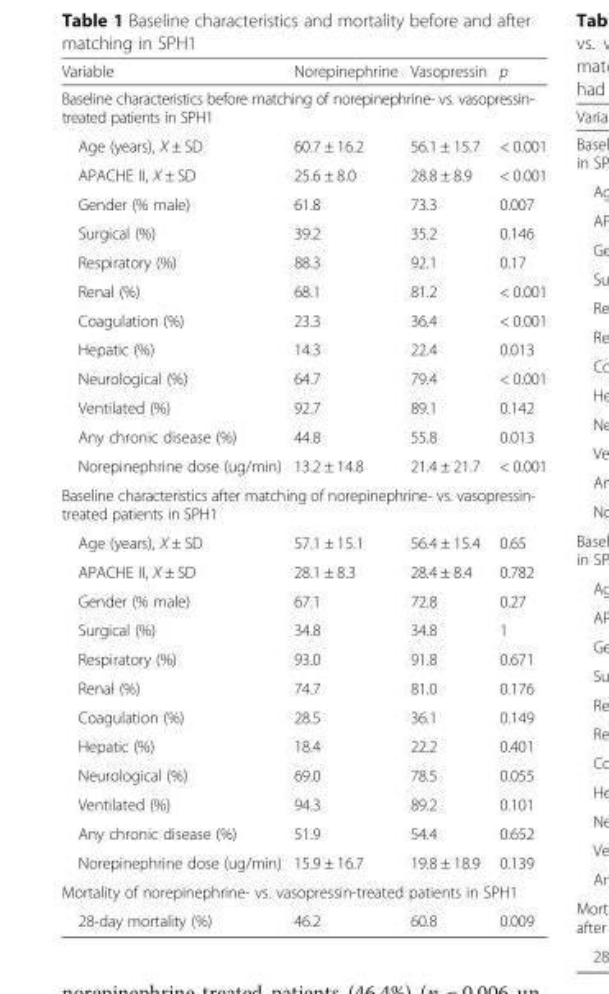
<table><thead><tr><td>Variable</td><td>Norepinephrine</td><td>Vasopressin</td><td>p</td></tr></thead><tbody><tr><td colspan="4">Baseline characteristics before matching of norepinephrine- vs. vasopressin- treated patients in SPH1</td></tr><tr><td>Age (years), X ± SD</td><td>60.7 ± 16.2</td><td>56.1 ± 15.7</td><td>&lt; 0.001</td></tr><tr><td>APACHE II, X ± SD</td><td>25.6 ± 8.0</td><td>28.8 ± 8.9</td><td>&lt; 0.001</td></tr><tr><td>Gender (% male)</td><td>61.8</td><td>73.3</td><td>0.007</td></tr><tr><td>Surgical (%)</td><td>39.2</td><td>35.2</td><td>0.146</td></tr><tr><td>Respiratory (%)</td><td>88.3</td><td>92.1</td><td>0.17</td></tr><tr><td>Renal (%)</td><td>68.1</td><td>81.2</td><td>&lt; 0.001</td></tr><tr><td>Coagulation (%)</td><td>23.3</td><td>36.4</td><td>&lt; 0.001</td></tr><tr><td>Hepatic (%)</td><td>14.3</td><td>22.4</td><td>0.013</td></tr><tr><td>Neurological (%)</td><td>64.7</td><td>79.4</td><td>&lt; 0.001</td></tr><tr><td>Ventilated (%)</td><td>92.7</td><td>89.1</td><td>0.142</td></tr><tr><td>Any chronic disease (%)</td><td>44.8</td><td>55.8</td><td>0.013</td></tr><tr><td>Norepinephrine dose (ug/min)</td><td>13.2 ± 14.8</td><td>21.4 ± 21.7</td><td>&lt; 0.001</td></tr><tr><td colspan="4">Baseline characteristics after matching of norepinephrine- vs. vasopressin- treated patients in SPH1</td></tr><tr><td>Age (years), X ± SD</td><td>57.1 ± 15.1</td><td>56.4 ± 15.4</td><td>0.65</td></tr><tr><td>APACHE II, X ± SD</td><td>28.1 ± 8.3</td><td>28.4 ± 8.4</td><td>0.782</td></tr><tr><td>Gender (% male)</td><td>67.1</td><td>72.8</td><td>0.27</td></tr><tr><td>Surgical (%)</td><td>34.8</td><td>34.8</td><td>1</td></tr><tr><td>Respiratory (%)</td><td>93.0</td><td>91.8</td><td>0.671</td></tr><tr><td>Renal (%)</td><td>74.7</td><td>81.0</td><td>0.176</td></tr><tr><td>Coagulation (%)</td><td>28.5</td><td>36.1</td><td>0.149</td></tr><tr><td>Hepatic (%)</td><td>18.4</td><td>22.2</td><td>0.401</td></tr><tr><td>Neurological (%)</td><td>69.0</td><td>78.5</td><td>0.055</td></tr><tr><td>Ventilated (%)</td><td>94.3</td><td>89.2</td><td>0.101</td></tr><tr><td>Any chronic disease (%)</td><td>51.9</td><td>54.4</td><td>0.652</td></tr><tr><td>Norepinephrine dose (ug/min)</td><td>15.9 ± 16.7</td><td>19.8 ± 18.9</td><td>0.139</td></tr><tr><td colspan="4">Mortality of norepinephrine- vs. vasopressin-treated patients in SPH1</td></tr><tr><td>28-day mortality (%)</td><td>46.2</td><td>60.8</td><td>0.009</td></tr></tbody></table>